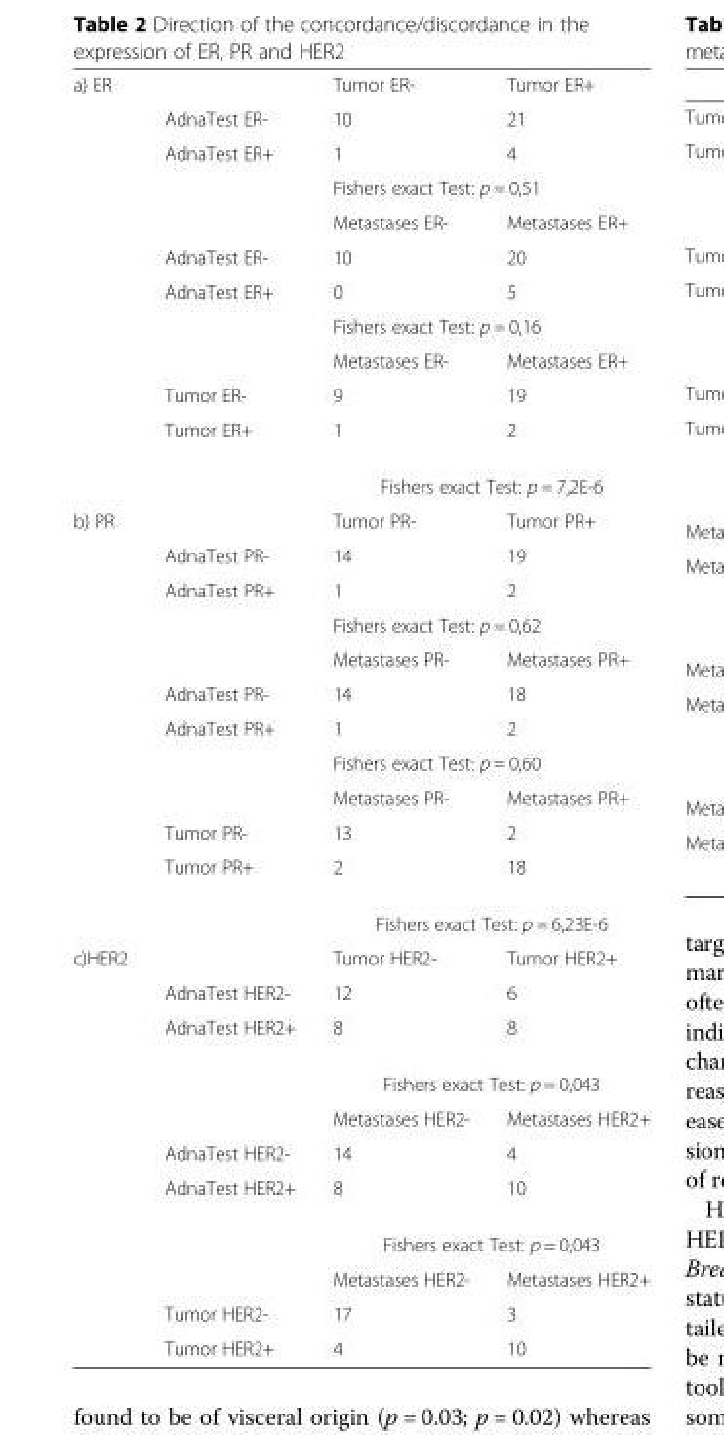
<table><tbody><tr><td rowspan="12">a) ER</td><td></td><td>Tumor ER-</td><td>Tumor ER+</td></tr><tr><td>AdnaTest ER-</td><td>10</td><td>21</td></tr><tr><td>AdnaTest ER+</td><td>1</td><td>4</td></tr><tr><td></td><td colspan="2">Fishers exact Test: p = 0,51</td></tr><tr><td></td><td>Metastases ER-</td><td>Metastases ER+</td></tr><tr><td>AdnaTest ER-</td><td>10</td><td>20</td></tr><tr><td>AdnaTest ER+</td><td>0</td><td>5</td></tr><tr><td></td><td colspan="2">Fishers exact Test: p = 0,16</td></tr><tr><td></td><td>Metastases ER-</td><td>Metastases ER+</td></tr><tr><td>Tumor ER-</td><td>9</td><td>19</td></tr><tr><td>Tumor ER+</td><td>1</td><td>2</td></tr><tr><td></td><td colspan="2">Fishers exact Test: p = 7,2E-6</td></tr><tr><td rowspan="12">b) PR</td><td></td><td>Tumor PR-</td><td>Tumor PR+</td></tr><tr><td>AdnaTest PR-</td><td>14</td><td>19</td></tr><tr><td>AdnaTest PR+</td><td>1</td><td>2</td></tr><tr><td></td><td colspan="2">Fishers exact Test: p = 0,62</td></tr><tr><td></td><td>Metastases PR-</td><td>Metastases PR+</td></tr><tr><td>AdnaTest PR-</td><td>14</td><td>18</td></tr><tr><td>AdnaTest PR+</td><td>1</td><td>2</td></tr><tr><td></td><td colspan="2">Fishers exact Test: p = 0,60</td></tr><tr><td></td><td>Metastases PR-</td><td>Metastases PR+</td></tr><tr><td>Tumor PR-</td><td>13</td><td>2</td></tr><tr><td>Tumor PR+</td><td>2</td><td>18</td></tr><tr><td></td><td colspan="2">Fishers exact Test: p = 6,23E-6</td></tr><tr><td rowspan="11">c)HER2</td><td></td><td>Tumor HER2-</td><td>Tumor HER2+</td></tr><tr><td>AdnaTest HER2-</td><td>12</td><td>6</td></tr><tr><td>AdnaTest HER2+</td><td>8</td><td>8</td></tr><tr><td></td><td colspan="2">Fishers exact Test: p = 0,043</td></tr><tr><td></td><td>Metastases HER2-</td><td>Metastases HER2+</td></tr><tr><td>AdnaTest HER2-</td><td>14</td><td>4</td></tr><tr><td>AdnaTest HER2+</td><td>8</td><td>10</td></tr><tr><td></td><td colspan="2">Fishers exact Test: p = 0,043</td></tr><tr><td></td><td>Metastases HER2-</td><td>Metastases HER2+</td></tr><tr><td>Tumor HER2-</td><td>17</td><td>3</td></tr><tr><td>Tumor HER2+</td><td>4</td><td>10</td></tr></tbody></table>